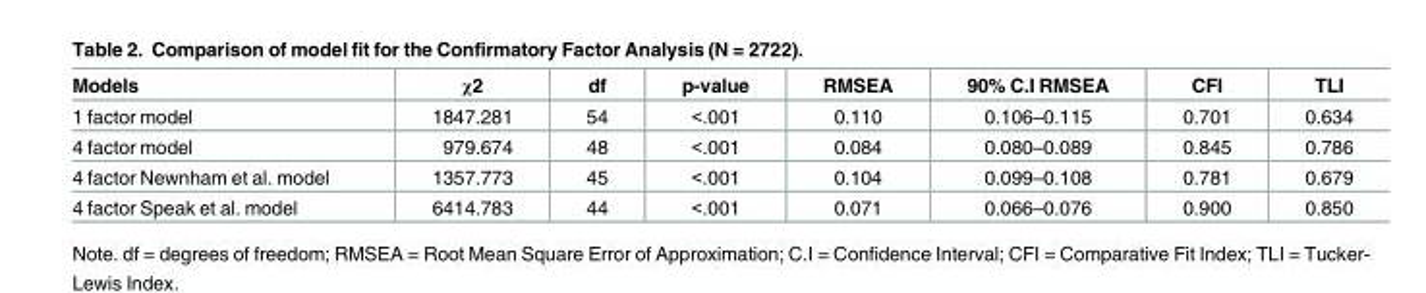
<table><thead><tr><td>Models</td><td>χ2</td><td>df</td><td>p-value</td><td>RMSEA</td><td>90% C.I RMSEA</td><td>CFI</td><td>TLI</td></tr></thead><tbody><tr><td>1 factor model</td><td>1847.281</td><td>54</td><td>&lt;.001</td><td>0.110</td><td>0.106–0.115</td><td>0.701</td><td>0.634</td></tr><tr><td>4 factor model</td><td>979.674</td><td>48</td><td>&lt;.001</td><td>0.084</td><td>0.080–0.089</td><td>0.845</td><td>0.786</td></tr><tr><td>4 factor Newnham et al. model</td><td>1357.773</td><td>45</td><td>&lt;.001</td><td>0.104</td><td>0.099–0.108</td><td>0.781</td><td>0.679</td></tr><tr><td>4 factor Speak et al. model</td><td>6414.783</td><td>44</td><td>&lt;.001</td><td>0.071</td><td>0.066–0.076</td><td>0.900</td><td>0.850</td></tr></tbody></table>